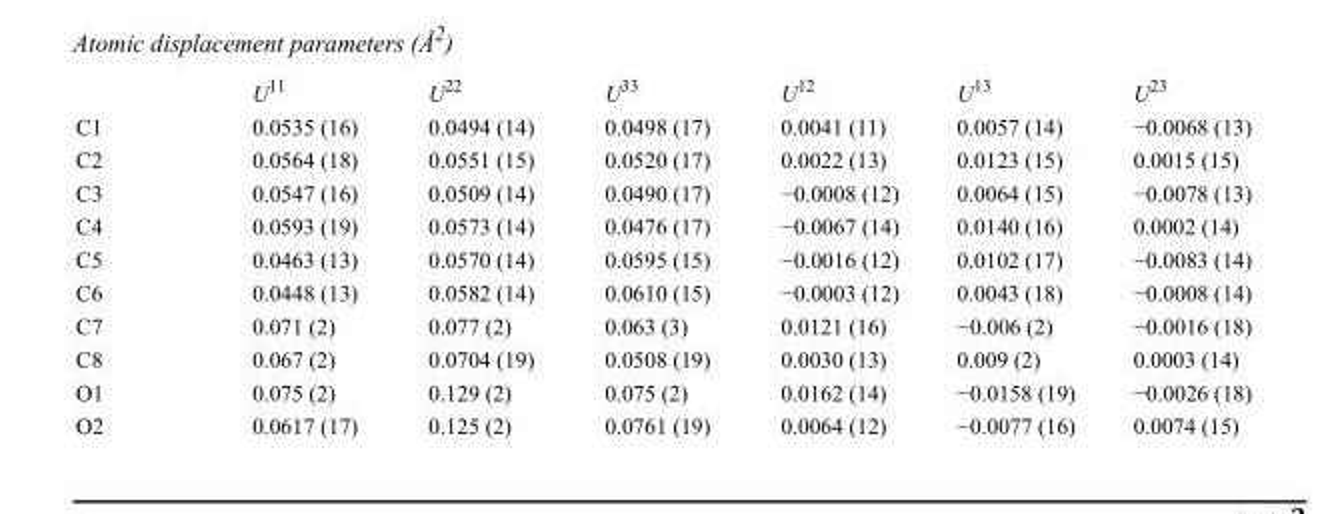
<table><thead><tr><td></td><td>U<sup>11</sup></td><td>U<sup>22</sup></td><td>U<sup>33</sup></td><td>U<sup>12</sup></td><td>U<sup>13</sup></td><td>U<sup>23</sup></td></tr></thead><tbody><tr><td>C1</td><td>0.0535 (16)</td><td>0.0494 (14)</td><td>0.0498 (17)</td><td>0.0041 (11)</td><td>0.0057 (14)</td><td>−0.0068 (13)</td></tr><tr><td>C2</td><td>0.0564 (18)</td><td>0.0551 (15)</td><td>0.0520 (17)</td><td>0.0022 (13)</td><td>0.0123 (15)</td><td>0.0015 (15)</td></tr><tr><td>C3</td><td>0.0547 (16)</td><td>0.0509 (14)</td><td>0.0490 (17)</td><td>−0.0008 (12)</td><td>0.0064 (15)</td><td>−0.0078 (13)</td></tr><tr><td>C4</td><td>0.0593 (19)</td><td>0.0573 (14)</td><td>0.0476 (17)</td><td>−0.0067 (14)</td><td>0.0140 (16)</td><td>0.0002 (14)</td></tr><tr><td>C5</td><td>0.0463 (13)</td><td>0.0570 (14)</td><td>0.0595 (15)</td><td>−0.0016 (12)</td><td>0.0102 (17)</td><td>−0.0083 (14)</td></tr><tr><td>C6</td><td>0.0448 (13)</td><td>0.0582 (14)</td><td>0.0610 (15)</td><td>−0.0003 (12)</td><td>0.0043 (18)</td><td>−0.0008 (14)</td></tr><tr><td>C7</td><td>0.071 (2)</td><td>0.077 (2)</td><td>0.063 (3)</td><td>0.0121 (16)</td><td>−0.006 (2)</td><td>−0.0016 (18)</td></tr><tr><td>C8</td><td>0.067 (2)</td><td>0.0704 (19)</td><td>0.0508 (19)</td><td>0.0030 (13)</td><td>0.009 (2)</td><td>0.0003 (14)</td></tr><tr><td>O1</td><td>0.075 (2)</td><td>0.129 (2)</td><td>0.075 (2)</td><td>0.0162 (14)</td><td>−0.0158 (19)</td><td>−0.0026 (18)</td></tr><tr><td>O2</td><td>0.0617 (17)</td><td>0.125 (2)</td><td>0.0761 (19)</td><td>0.0064 (12)</td><td>−0.0077 (16)</td><td>0.0074 (15)</td></tr></tbody></table>